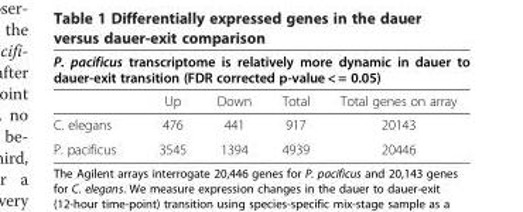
<table><thead><tr><td colspan="5">P. pacificus transcriptome is relatively more dynamic in dauer to dauer-exit transition (FDR corrected p-value &lt; = 0.05)</td></tr><tr><td></td><td>Up</td><td>Down</td><td>Total</td><td>Total genes on array</td></tr></thead><tbody><tr><td>C. elegans</td><td>476</td><td>441</td><td>917</td><td>20143</td></tr><tr><td>P. pacificus</td><td>3545</td><td>1394</td><td>4939</td><td>20446</td></tr></tbody></table>